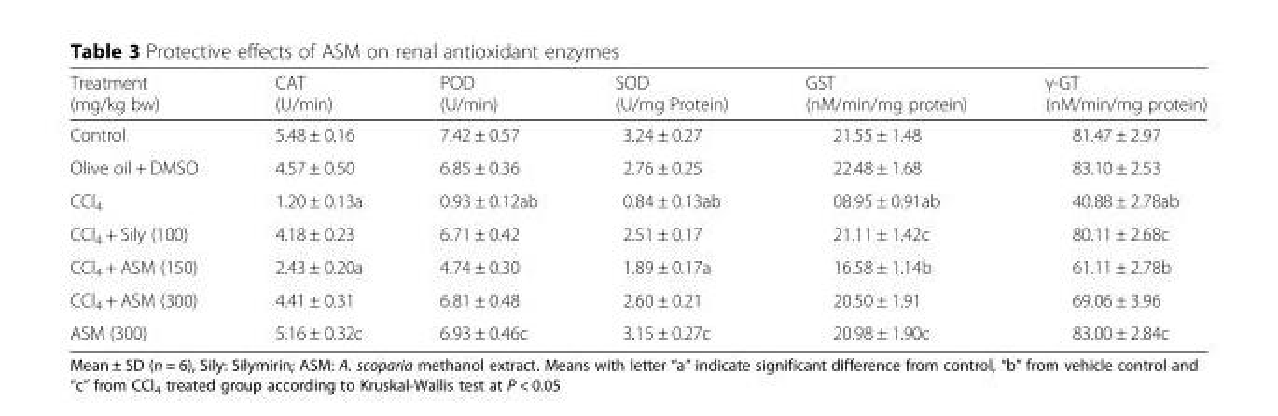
<table><thead><tr><td>Treatment (mg/kg bw)</td><td>CAT (U/min)</td><td>POD (U/min)</td><td>SOD (U/mg Protein)</td><td>GST (nM/min/mg protein)</td><td>γ-GT (nM/min/mg protein)</td></tr></thead><tbody><tr><td>Control</td><td>5.48 ± 0.16</td><td>7.42 ± 0.57</td><td>3.24 ± 0.27</td><td>21.55 ± 1.48</td><td>81.47 ± 2.97</td></tr><tr><td>Olive oil + DMSO</td><td>4.57 ± 0.50</td><td>6.85 ± 0.36</td><td>2.76 ± 0.25</td><td>22.48 ± 1.68</td><td>83.10 ± 2.53</td></tr><tr><td>CCl<sub>4</sub></td><td>1.20 ± 0.13a</td><td>0.93 ± 0.12ab</td><td>0.84 ± 0.13ab</td><td>08.95 ± 0.91ab</td><td>40.88 ± 2.78ab</td></tr><tr><td>CCl<sub>4</sub> + Sily (100)</td><td>4.18 ± 0.23</td><td>6.71 ± 0.42</td><td>2.51 ± 0.17</td><td>21.11 ± 1.42c</td><td>80.11 ± 2.68c</td></tr><tr><td>CCl<sub>4</sub> + ASM (150)</td><td>2.43 ± 0.20a</td><td>4.74 ± 0.30</td><td>1.89 ± 0.17a</td><td>16.58 ± 1.14b</td><td>61.11 ± 2.78b</td></tr><tr><td>CCl<sub>4</sub> + ASM (300)</td><td>4.41 ± 0.31</td><td>6.81 ± 0.48</td><td>2.60 ± 0.21</td><td>20.50 ± 1.91</td><td>69.06 ± 3.96</td></tr><tr><td>ASM (300)</td><td>5.16 ± 0.32c</td><td>6.93 ± 0.46c</td><td>3.15 ± 0.27c</td><td>20.98 ± 1.90c</td><td>83.00 ± 2.84c</td></tr></tbody></table>